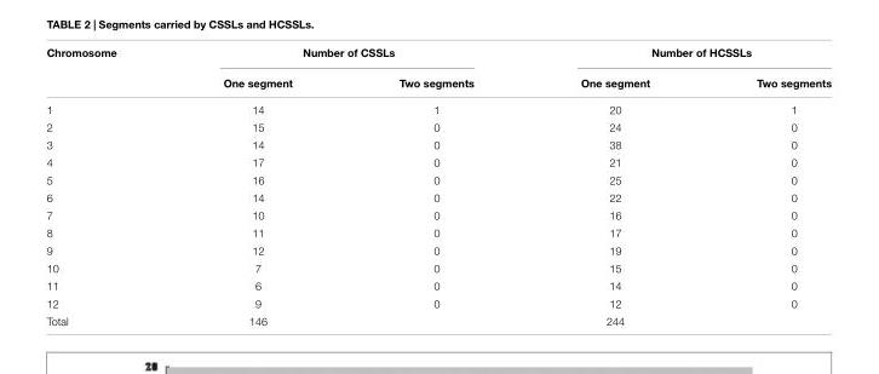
<table><thead><tr><td rowspan="2">Chromosome</td><td colspan="2">Number of CSSLs</td><td colspan="2">Number of HCSSLs</td></tr><tr><td>One segment</td><td>Two segments</td><td>One segment</td><td>Two segments</td></tr></thead><tbody><tr><td>1</td><td>14</td><td>1</td><td>20</td><td>1</td></tr><tr><td>2</td><td>15</td><td>0</td><td>24</td><td>0</td></tr><tr><td>3</td><td>14</td><td>0</td><td>38</td><td>0</td></tr><tr><td>4</td><td>17</td><td>0</td><td>21</td><td>0</td></tr><tr><td>5</td><td>16</td><td>0</td><td>25</td><td>0</td></tr><tr><td>6</td><td>14</td><td>0</td><td>22</td><td>0</td></tr><tr><td>7</td><td>10</td><td>0</td><td>16</td><td>0</td></tr><tr><td>8</td><td>11</td><td>0</td><td>17</td><td>0</td></tr><tr><td>9</td><td>12</td><td>0</td><td>19</td><td>0</td></tr><tr><td>10</td><td>7</td><td>0</td><td>15</td><td>0</td></tr><tr><td>11</td><td>6</td><td>0</td><td>14</td><td>0</td></tr><tr><td>12</td><td>9</td><td>0</td><td>12</td><td>0</td></tr><tr><td>Total</td><td>146</td><td></td><td>244</td><td></td></tr></tbody></table>